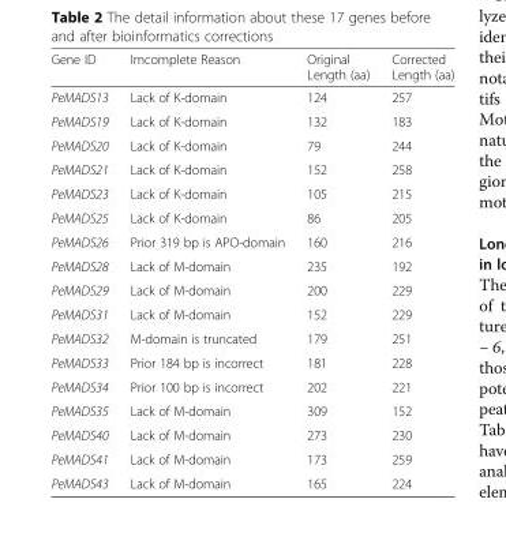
<table><thead><tr><td>Gene ID</td><td>Imcomplete Reason</td><td>Original Length (aa)</td><td>Corrected Length (aa)</td></tr></thead><tbody><tr><td>PeMADS13</td><td>Lack of K-domain</td><td>124</td><td>257</td></tr><tr><td>PeMADS19</td><td>Lack of K-domain</td><td>132</td><td>183</td></tr><tr><td>PeMADS20</td><td>Lack of K-domain</td><td>79</td><td>244</td></tr><tr><td>PeMADS21</td><td>Lack of K-domain</td><td>152</td><td>258</td></tr><tr><td>PeMADS23</td><td>Lack of K-domain</td><td>105</td><td>215</td></tr><tr><td>PeMADS25</td><td>Lack of K-domain</td><td>86</td><td>205</td></tr><tr><td>PeMADS26</td><td>Prior 319 bp is APO-domain</td><td>160</td><td>216</td></tr><tr><td>PeMADS28</td><td>Lack of M-domain</td><td>235</td><td>192</td></tr><tr><td>PeMADS29</td><td>Lack of M-domain</td><td>200</td><td>229</td></tr><tr><td>PeMADS31</td><td>Lack of M-domain</td><td>152</td><td>229</td></tr><tr><td>PeMADS32</td><td>M-domain is truncated</td><td>179</td><td>251</td></tr><tr><td>PeMADS33</td><td>Prior 184 bp is incorrect</td><td>181</td><td>228</td></tr><tr><td>PeMADS34</td><td>Prior 100 bp is incorrect</td><td>202</td><td>221</td></tr><tr><td>PeMADS35</td><td>Lack of M-domain</td><td>309</td><td>152</td></tr><tr><td>PeMADS40</td><td>Lack of M-domain</td><td>273</td><td>230</td></tr><tr><td>PeMADS41</td><td>Lack of M-domain</td><td>173</td><td>259</td></tr><tr><td>PeMADS43</td><td>Lack of M-domain</td><td>165</td><td>224</td></tr></tbody></table>